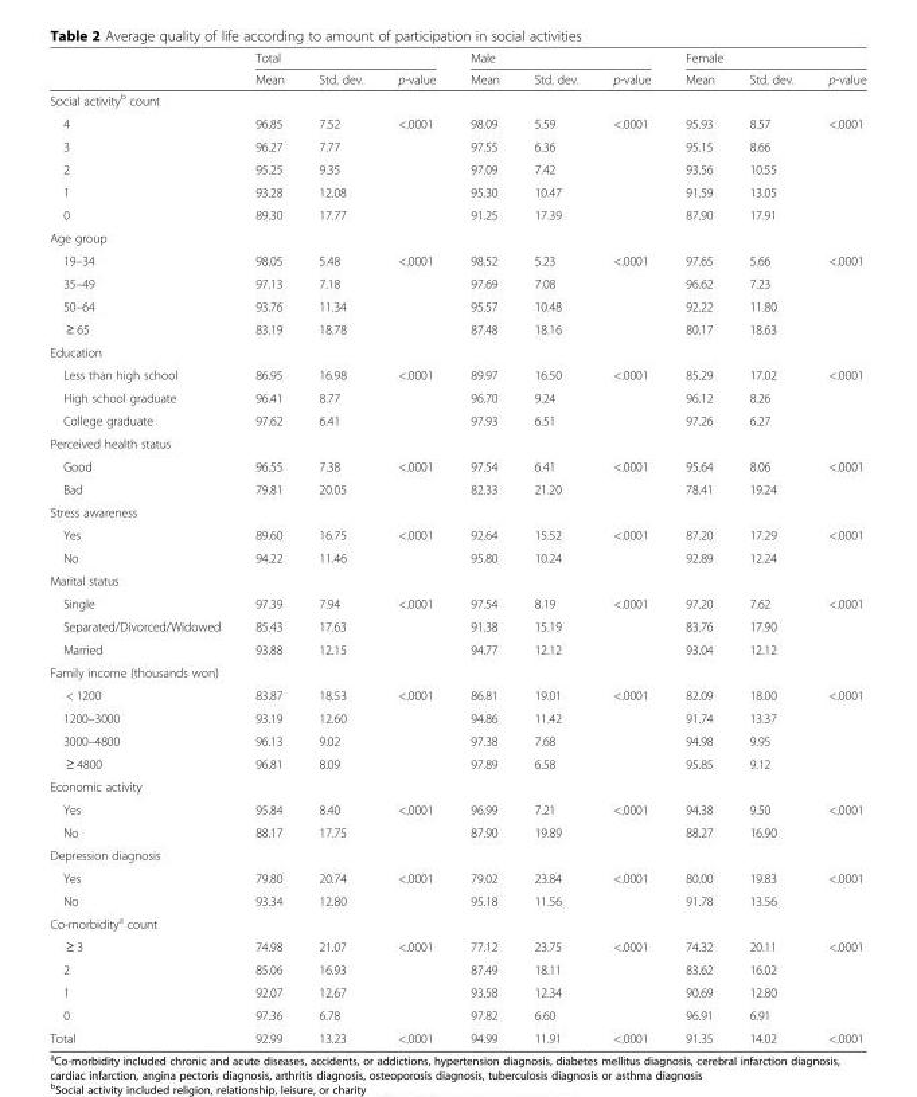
<table><thead><tr><td rowspan="2"></td><td colspan="3">Total</td><td colspan="3">Male</td><td colspan="3">Female</td></tr><tr><td>Mean</td><td>Std. dev.</td><td>p-value</td><td>Mean</td><td>Std. dev.</td><td>p-value</td><td>Mean</td><td>Std. dev.</td><td>p-value</td></tr></thead><tbody><tr><td colspan="10">Social activity<sup>b</sup> count</td></tr><tr><td>4</td><td>96.85</td><td>7.52</td><td>&lt;.0001</td><td>98.09</td><td>5.59</td><td>&lt;.0001</td><td>95.93</td><td>8.57</td><td>&lt;.0001</td></tr><tr><td>3</td><td>96.27</td><td>7.77</td><td></td><td>97.55</td><td>6.36</td><td></td><td>95.15</td><td>8.66</td><td></td></tr><tr><td>2</td><td>95.25</td><td>9.35</td><td></td><td>97.09</td><td>7.42</td><td></td><td>93.56</td><td>10.55</td><td></td></tr><tr><td>1</td><td>93.28</td><td>12.08</td><td></td><td>95.30</td><td>10.47</td><td></td><td>91.59</td><td>13.05</td><td></td></tr><tr><td>0</td><td>89.30</td><td>17.77</td><td></td><td>91.25</td><td>17.39</td><td></td><td>87.90</td><td>17.91</td><td></td></tr><tr><td colspan="10">Age group</td></tr><tr><td>19–34</td><td>98.05</td><td>5.48</td><td>&lt;.0001</td><td>98.52</td><td>5.23</td><td>&lt;.0001</td><td>97.65</td><td>5.66</td><td>&lt;.0001</td></tr><tr><td>35–49</td><td>97.13</td><td>7.18</td><td></td><td>97.69</td><td>7.08</td><td></td><td>96.62</td><td>7.23</td><td></td></tr><tr><td>50–64</td><td>93.76</td><td>11.34</td><td></td><td>95.57</td><td>10.48</td><td></td><td>92.22</td><td>11.80</td><td></td></tr><tr><td>≥ 65</td><td>83.19</td><td>18.78</td><td></td><td>87.48</td><td>18.16</td><td></td><td>80.17</td><td>18.63</td><td></td></tr><tr><td colspan="10">Education</td></tr><tr><td>Less than high school</td><td>86.95</td><td>16.98</td><td>&lt;.0001</td><td>89.97</td><td>16.50</td><td>&lt;.0001</td><td>85.29</td><td>17.02</td><td>&lt;.0001</td></tr><tr><td>High school graduate</td><td>96.41</td><td>8.77</td><td></td><td>96.70</td><td>9.24</td><td></td><td>96.12</td><td>8.26</td><td></td></tr><tr><td>College graduate</td><td>97.62</td><td>6.41</td><td></td><td>97.93</td><td>6.51</td><td></td><td>97.26</td><td>6.27</td><td></td></tr><tr><td colspan="10">Perceived health status</td></tr><tr><td>Good</td><td>96.55</td><td>7.38</td><td>&lt;.0001</td><td>97.54</td><td>6.41</td><td>&lt;.0001</td><td>95.64</td><td>8.06</td><td>&lt;.0001</td></tr><tr><td>Bad</td><td>79.81</td><td>20.05</td><td></td><td>82.33</td><td>21.20</td><td></td><td>78.41</td><td>19.24</td><td></td></tr><tr><td colspan="10">Stress awareness</td></tr><tr><td>Yes</td><td>89.60</td><td>16.75</td><td>&lt;.0001</td><td>92.64</td><td>15.52</td><td>&lt;.0001</td><td>87.20</td><td>17.29</td><td>&lt;.0001</td></tr><tr><td>No</td><td>94.22</td><td>11.46</td><td></td><td>95.80</td><td>10.24</td><td></td><td>92.89</td><td>12.24</td><td></td></tr><tr><td colspan="10">Marital status</td></tr><tr><td>Single</td><td>97.39</td><td>7.94</td><td>&lt;.0001</td><td>97.54</td><td>8.19</td><td>&lt;.0001</td><td>97.20</td><td>7.62</td><td>&lt;.0001</td></tr><tr><td>Separated/Divorced/Widowed</td><td>85.43</td><td>17.63</td><td></td><td>91.38</td><td>15.19</td><td></td><td>83.76</td><td>17.90</td><td></td></tr><tr><td>Married</td><td>93.88</td><td>12.15</td><td></td><td>94.77</td><td>12.12</td><td></td><td>93.04</td><td>12.12</td><td></td></tr><tr><td colspan="10">Family income (thousands won)</td></tr><tr><td>&lt; 1200</td><td>83.87</td><td>18.53</td><td>&lt;.0001</td><td>86.81</td><td>19.01</td><td>&lt;.0001</td><td>82.09</td><td>18.00</td><td>&lt;.0001</td></tr><tr><td>1200–3000</td><td>93.19</td><td>12.60</td><td></td><td>94.86</td><td>11.42</td><td></td><td>91.74</td><td>13.37</td><td></td></tr><tr><td>3000–4800</td><td>96.13</td><td>9.02</td><td></td><td>97.38</td><td>7.68</td><td></td><td>94.98</td><td>9.95</td><td></td></tr><tr><td>≥ 4800</td><td>96.81</td><td>8.09</td><td></td><td>97.89</td><td>6.58</td><td></td><td>95.85</td><td>9.12</td><td></td></tr><tr><td colspan="10">Economic activity</td></tr><tr><td>Yes</td><td>95.84</td><td>8.40</td><td>&lt;.0001</td><td>96.99</td><td>7.21</td><td>&lt;.0001</td><td>94.38</td><td>9.50</td><td>&lt;.0001</td></tr><tr><td>No</td><td>88.17</td><td>17.75</td><td></td><td>87.90</td><td>19.89</td><td></td><td>88.27</td><td>16.90</td><td></td></tr><tr><td colspan="10">Depression diagnosis</td></tr><tr><td>Yes</td><td>79.80</td><td>20.74</td><td>&lt;.0001</td><td>79.02</td><td>23.84</td><td>&lt;.0001</td><td>80.00</td><td>19.83</td><td>&lt;.0001</td></tr><tr><td>No</td><td>93.34</td><td>12.80</td><td></td><td>95.18</td><td>11.56</td><td></td><td>91.78</td><td>13.56</td><td></td></tr><tr><td colspan="10">Co-morbidity<sup>a</sup> count</td></tr><tr><td>≥ 3</td><td>74.98</td><td>21.07</td><td>&lt;.0001</td><td>77.12</td><td>23.75</td><td>&lt;.0001</td><td>74.32</td><td>20.11</td><td>&lt;.0001</td></tr><tr><td>2</td><td>85.06</td><td>16.93</td><td></td><td>87.49</td><td>18.11</td><td></td><td>83.62</td><td>16.02</td><td></td></tr><tr><td>1</td><td>92.07</td><td>12.67</td><td></td><td>93.58</td><td>12.34</td><td></td><td>90.69</td><td>12.80</td><td></td></tr><tr><td>0</td><td>97.36</td><td>6.78</td><td></td><td>97.82</td><td>6.60</td><td></td><td>96.91</td><td>6.91</td><td></td></tr><tr><td>Total</td><td>92.99</td><td>13.23</td><td>&lt;.0001</td><td>94.99</td><td>11.91</td><td>&lt;.0001</td><td>91.35</td><td>14.02</td><td>&lt;.0001</td></tr></tbody></table>